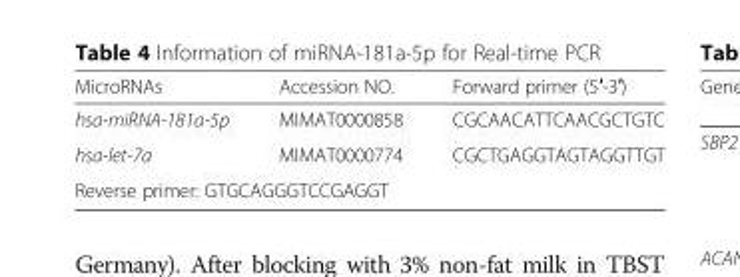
<table><thead><tr><td>MicroRNAs</td><td>Accession NO.</td><td>Forward primer (5′-3′)</td></tr></thead><tbody><tr><td>hsa-miRNA-181a-5p</td><td>MIMAT0000858</td><td>CGCAACATTCAACGCTGTC</td></tr><tr><td>hsa-let-7a</td><td>MIMAT0000774</td><td>CGCTGAGGTAGTAGGTTGT</td></tr><tr><td colspan="3">Reverse primer: GTGCAGGGTCCGAGGT</td></tr></tbody></table>